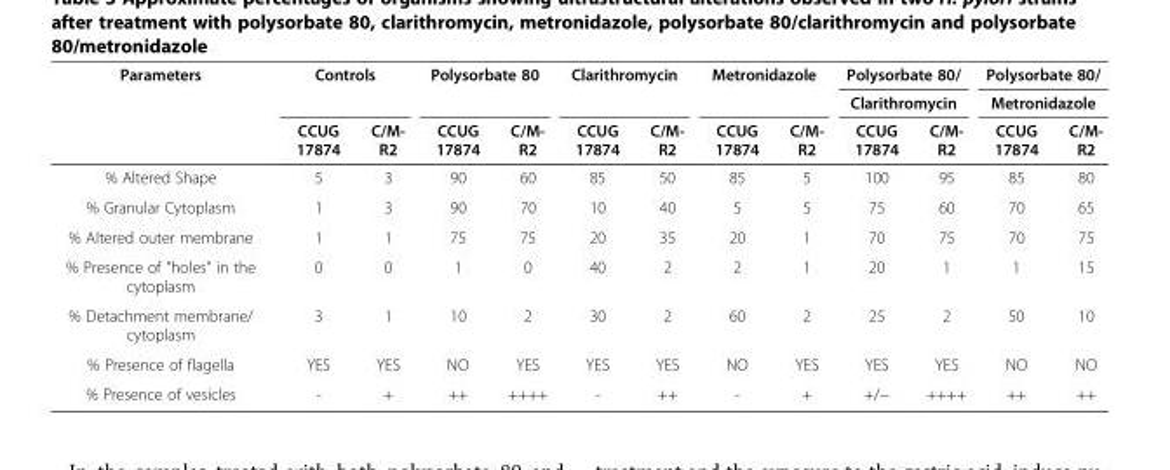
<table><thead><tr><td rowspan="3">Parameters</td><td colspan="2">Controls</td><td colspan="2">Polysorbate 80</td><td colspan="2">Clarithromycin</td><td colspan="2">Metronidazole</td><td rowspan="2" colspan="2">Polysorbate 80/ Clarithromycin</td><td rowspan="2" colspan="2">Polysorbate 80/ Metronidazole</td></tr><tr><td rowspan="2">CCUG 17874</td><td rowspan="2">C/M- R2</td><td rowspan="2">CCUG 17874</td><td rowspan="2">C/M- R2</td><td rowspan="2">CCUG 17874</td><td rowspan="2">C/M- R2</td><td rowspan="2">CCUG 17874</td><td rowspan="2">C/M- R2</td></tr><tr><td>CCUG 17874</td><td>C/M- R2</td><td>CCUG 17874</td><td>C/M- R2</td></tr></thead><tbody><tr><td>% Altered Shape</td><td>5</td><td>3</td><td>90</td><td>60</td><td>85</td><td>50</td><td>85</td><td>5</td><td>100</td><td>95</td><td>85</td><td>80</td></tr><tr><td>% Granular Cytoplasm</td><td>1</td><td>3</td><td>90</td><td>70</td><td>10</td><td>40</td><td>5</td><td>5</td><td>75</td><td>60</td><td>70</td><td>65</td></tr><tr><td>% Altered outer membrane</td><td>1</td><td>1</td><td>75</td><td>75</td><td>20</td><td>35</td><td>20</td><td>1</td><td>70</td><td>75</td><td>70</td><td>75</td></tr><tr><td>% Presence of “holes” in the cytoplasm</td><td>0</td><td>0</td><td>1</td><td>0</td><td>40</td><td>2</td><td>2</td><td>1</td><td>20</td><td>1</td><td>1</td><td>15</td></tr><tr><td>% Detachment membrane/ cytoplasm</td><td>3</td><td>1</td><td>10</td><td>2</td><td>30</td><td>2</td><td>60</td><td>2</td><td>25</td><td>2</td><td>50</td><td>10</td></tr><tr><td>% Presence of flagella</td><td>YES</td><td>YES</td><td>NO</td><td>YES</td><td>YES</td><td>YES</td><td>NO</td><td>YES</td><td>YES</td><td>YES</td><td>NO</td><td>NO</td></tr><tr><td>% Presence of vesicles</td><td>-</td><td>+</td><td>++</td><td>++++</td><td>-</td><td>++</td><td>-</td><td>+</td><td>+/−</td><td>++++</td><td>++</td><td>++</td></tr></tbody></table>